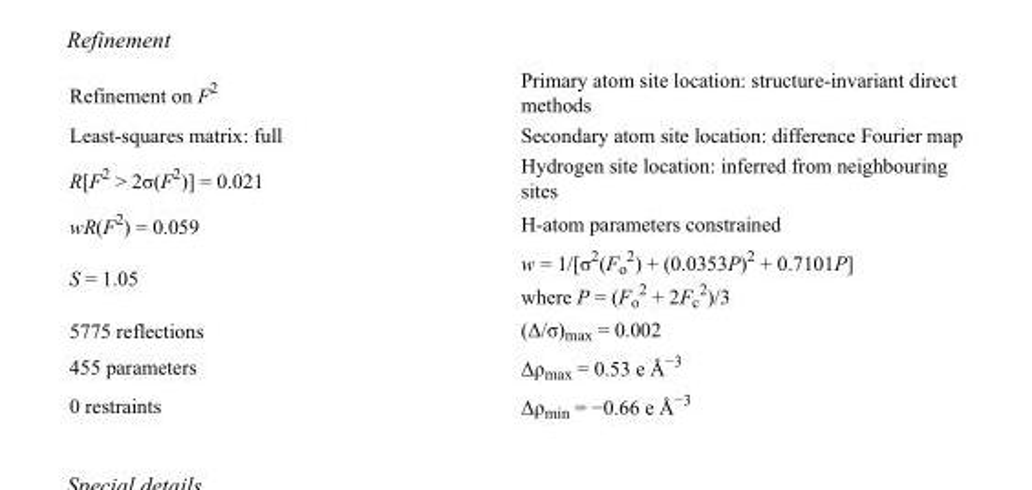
<table><tbody><tr><td>Refinement on F<sup>2</sup></td><td>Primary atom site location: structure-invariant direct methods</td></tr><tr><td>Least-squares matrix: full</td><td>Secondary atom site location: difference Fourier map</td></tr><tr><td>R[F<sup>2</sup> &gt; 2σ(F<sup>2</sup>)] = 0.021</td><td>Hydrogen site location: inferred from neighbouring sites</td></tr><tr><td>wR(F<sup>2</sup>) = 0.059</td><td>H-atom parameters constrained</td></tr><tr><td>S = 1.05</td><td>w = 1/[σ<sup>2</sup>(F<sub>o</sub> <sup>2</sup>) + (0.0353P)<sup>2</sup> + 0.7101P] where P = (F<sub>o</sub> <sup>2</sup> + 2F<sub>c</sub> <sup>2</sup>)/3</td></tr><tr><td>5775 reflections</td><td>(Δ/σ)<sub>max</sub> = 0.002</td></tr><tr><td>455 parameters</td><td>Δρ<sub>max</sub> = 0.53 e Å<sup>−3</sup></td></tr><tr><td>0 restraints</td><td>Δρ<sub>min</sub> = −0.66 e Å<sup>−3</sup></td></tr></tbody></table>